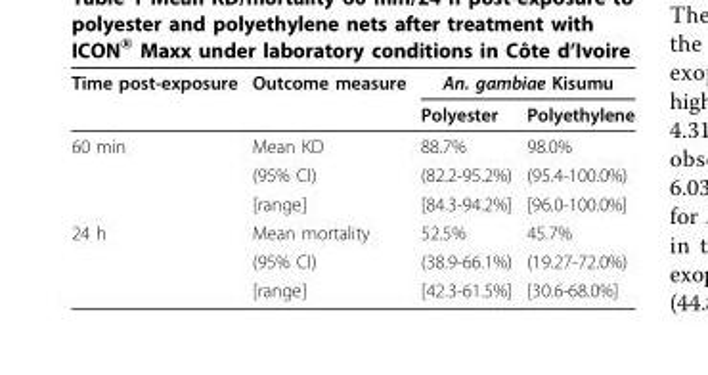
<table><thead><tr><td rowspan="2">Time post-exposure</td><td rowspan="2">Outcome measure</td><td colspan="2">An. gambiae Kisumu</td></tr><tr><td>Polyester</td><td>Polyethylene</td></tr></thead><tbody><tr><td rowspan="3">60 min</td><td>Mean KD</td><td>88.7%</td><td>98.0%</td></tr><tr><td>(95% CI)</td><td>(82.2-95.2%)</td><td>(95.4-100.0%)</td></tr><tr><td>[range]</td><td>[84.3-94.2%]</td><td>[96.0-100.0%]</td></tr><tr><td rowspan="3">24 h</td><td>Mean mortality</td><td>52.5%</td><td>45.7%</td></tr><tr><td>(95% CI)</td><td>(38.9-66.1%)</td><td>(19.27-72.0%)</td></tr><tr><td>[range]</td><td>[42.3-61.5%]</td><td>[30.6-68.0%]</td></tr></tbody></table>